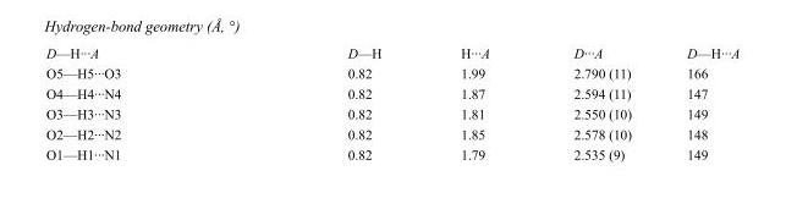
<table><tbody><tr><td>D—H···A</td><td>D—H</td><td>H···A</td><td>D···A</td><td>D—H···A</td></tr><tr><td>O5—H5···O3</td><td>0.82</td><td>1.99</td><td>2.790 (11)</td><td>166</td></tr><tr><td>O4—H4···N4</td><td>0.82</td><td>1.87</td><td>2.594 (11)</td><td>147</td></tr><tr><td>O3—H3···N3</td><td>0.82</td><td>1.81</td><td>2.550 (10)</td><td>149</td></tr><tr><td>O2—H2···N2</td><td>0.82</td><td>1.85</td><td>2.578 (10)</td><td>148</td></tr><tr><td>O1—H1···N1</td><td>0.82</td><td>1.79</td><td>2.535 (9)</td><td>149</td></tr></tbody></table>